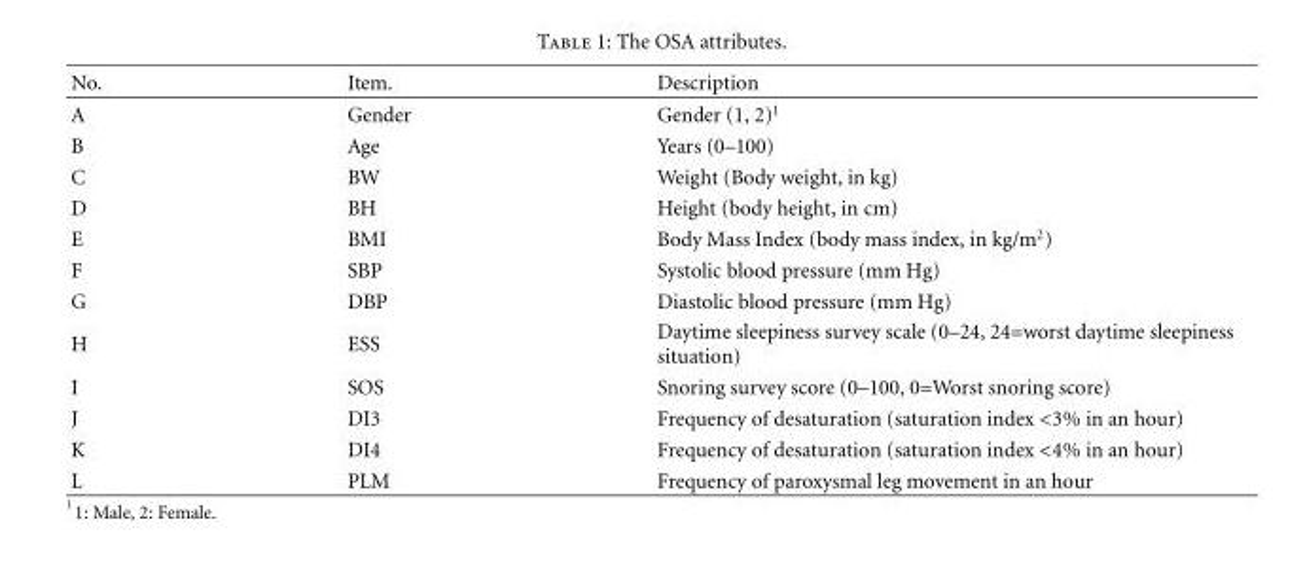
<table><thead><tr><td>No.</td><td>Item.</td><td>Description</td></tr></thead><tbody><tr><td>A</td><td>Gender</td><td>Gender (1, 2)<sup>1</sup></td></tr><tr><td>B</td><td>Age</td><td>Years (0–100)</td></tr><tr><td>C</td><td>BW</td><td>Weight (Body weight, in kg)</td></tr><tr><td>D</td><td>BH</td><td>Height (body height, in cm)</td></tr><tr><td>E</td><td>BMI</td><td>Body Mass Index (body mass index, in kg/m<sup>2</sup>)</td></tr><tr><td>F</td><td>SBP</td><td>Systolic blood pressure (mm Hg)</td></tr><tr><td>G</td><td>DBP</td><td>Diastolic blood pressure (mm Hg)</td></tr><tr><td>H</td><td>ESS</td><td>Daytime sleepiness survey scale (0–24, 24=worst daytime sleepiness situation)</td></tr><tr><td>I</td><td>SOS</td><td>Snoring survey score (0–100, 0=Worst snoring score)</td></tr><tr><td>J</td><td>DI3</td><td>Frequency of desaturation (saturation index &lt;3% in an hour)</td></tr><tr><td>K</td><td>DI4</td><td>Frequency of desaturation (saturation index &lt;4% in an hour)</td></tr><tr><td>L</td><td>PLM</td><td>Frequency of paroxysmal leg movement in an hour</td></tr></tbody></table>